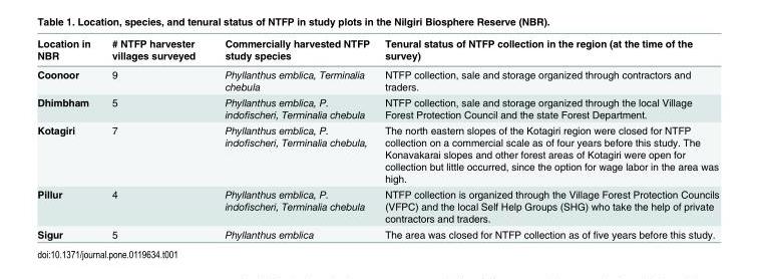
<table><thead><tr><td>Location in NBR</td><td># NTFP harvester villages surveyed</td><td>Commercially harvested NTFP study species</td><td>Tenural status of NTFP collection in the region (at the time of the survey)</td></tr></thead><tbody><tr><td>Coonoor</td><td>9</td><td>Phyllanthus emblica, Terminalia chebula</td><td>NTFP collection, sale and storage organized through contractors and traders.</td></tr><tr><td>Dhimbham</td><td>5</td><td>Phyllanthus emblica, P. indofischeri, Terminalia chebula</td><td>NTFP collection, sale and storage organized through the local Village Forest Protection Council and the state Forest Department.</td></tr><tr><td>Kotagiri</td><td>7</td><td>Phyllanthus emblica, P. indofischeri, Terminalia chebula,</td><td>The north eastern slopes of the Kotagiri region were closed for NTFP collection on a commercial scale as of four years before this study. The Konavakarai slopes and other forest areas of Kotagiri were open for collection but little occurred, since the option for wage labor in the area was high.</td></tr><tr><td>Pillur</td><td>4</td><td>Phyllanthus emblica, P. indofischeri, Terminalia chebula</td><td>NTFP collection is organized through the Village Forest Protection Councils (VFPC) and the local Self Help Groups (SHG) who take the help of private contractors and traders.</td></tr><tr><td>Sigur</td><td>5</td><td>Phyllanthus emblica</td><td>The area was closed for NTFP collection as of five years before this study.</td></tr></tbody></table>